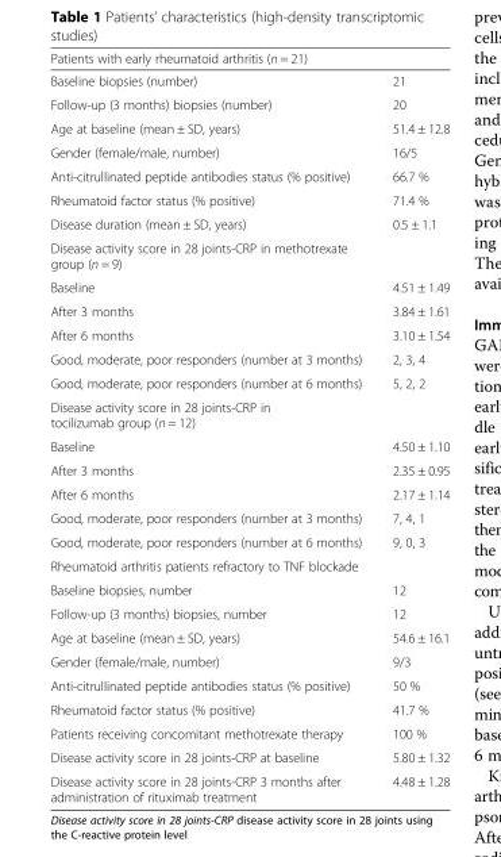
<table><thead><tr><td colspan="2">Patients with early rheumatoid arthritis (n = 21)</td></tr><tr><td>Baseline biopsies (number)</td><td>21</td></tr></thead><tbody><tr><td>Follow-up (3 months) biopsies (number)</td><td>20</td></tr><tr><td>Age at baseline (mean ± SD, years)</td><td>51.4 ± 12.8</td></tr><tr><td>Gender (female/male, number)</td><td>16/5</td></tr><tr><td>Anti-citrullinated peptide antibodies status (% positive)</td><td>66.7 %</td></tr><tr><td>Rheumatoid factor status (% positive)</td><td>71.4 %</td></tr><tr><td>Disease duration (mean ± SD, years)</td><td>0.5 ± 1.1</td></tr><tr><td colspan="2">Disease activity score in 28 joints-CRP in methotrexate group (n = 9)</td></tr><tr><td>Baseline</td><td>4.51 ± 1.49</td></tr><tr><td>After 3 months</td><td>3.84 ± 1.61</td></tr><tr><td>After 6 months</td><td>3.10 ± 1.54</td></tr><tr><td>Good, moderate, poor responders (number at 3 months)</td><td>2, 3, 4</td></tr><tr><td>Good, moderate, poor responders (number at 6 months)</td><td>5, 2, 2</td></tr><tr><td colspan="2">Disease activity score in 28 joints-CRP in tocilizumab group (n = 12)</td></tr><tr><td>Baseline</td><td>4.50 ± 1.10</td></tr><tr><td>After 3 months</td><td>2.35 ± 0.95</td></tr><tr><td>After 6 months</td><td>2.17 ± 1.14</td></tr><tr><td>Good, moderate, poor responders (number at 3 months)</td><td>7, 4, 1</td></tr><tr><td>Good, moderate, poor responders (number at 6 months)</td><td>9, 0, 3</td></tr><tr><td colspan="2">Rheumatoid arthritis patients refractory to TNF blockade</td></tr><tr><td>Baseline biopsies, number</td><td>12</td></tr><tr><td>Follow-up (3 months) biopsies, number</td><td>12</td></tr><tr><td>Age at baseline (mean ± SD, years)</td><td>54.6 ± 16.1</td></tr><tr><td>Gender (female/male, number)</td><td>9/3</td></tr><tr><td>Anti-citrullinated peptide antibodies status (% positive)</td><td>50 %</td></tr><tr><td>Rheumatoid factor status (% positive)</td><td>41.7 %</td></tr><tr><td>Patients receiving concomitant methotrexate therapy</td><td>100 %</td></tr><tr><td>Disease activity score in 28 joints-CRP at baseline</td><td>5.80 ± 1.32</td></tr><tr><td>Disease activity score in 28 joints-CRP 3 months after administration of rituximab treatment</td><td>4.48 ± 1.28</td></tr></tbody></table>